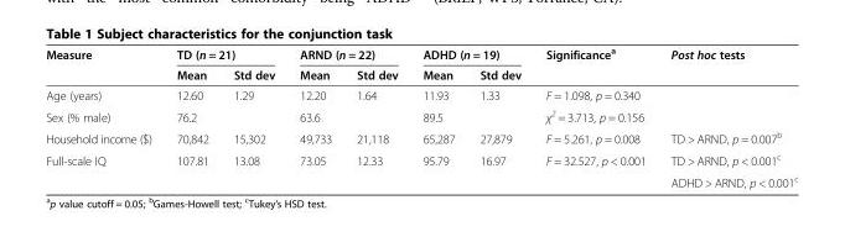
<table><thead><tr><td rowspan="2">Measure</td><td colspan="2">TD (n = 21)</td><td colspan="2">ARND (n = 22)</td><td colspan="2">ADHD (n = 19)</td><td rowspan="2">Significance<sup>a</sup></td><td rowspan="2">Post hoc tests</td></tr><tr><td>Mean</td><td>Std dev</td><td>Mean</td><td>Std dev</td><td>Mean</td><td>Std dev</td></tr></thead><tbody><tr><td>Age (years)</td><td>12.60</td><td>1.29</td><td>12.20</td><td>1.64</td><td>11.93</td><td>1.33</td><td>F = 1.098, p = 0.340</td><td></td></tr><tr><td>Sex (% male)</td><td>76.2</td><td></td><td>63.6</td><td></td><td>89.5</td><td></td><td>χ<sup>2</sup> = 3.713, p = 0.156</td><td></td></tr><tr><td>Household income ($)</td><td>70,842</td><td>15,302</td><td>49,733</td><td>21,118</td><td>65,287</td><td>27,879</td><td>F = 5.261, p = 0.008</td><td>TD &gt; ARND, p = 0.007<sup>b</sup></td></tr><tr><td rowspan="2">Full-scale IQ</td><td>107.81</td><td>13.08</td><td>73.05</td><td>12.33</td><td>95.79</td><td>16.97</td><td>F = 32.527, p &lt; 0.001</td><td>TD &gt; ARND, p &lt; 0.001<sup>c</sup></td></tr><tr><td></td><td></td><td></td><td></td><td></td><td></td><td></td><td>ADHD &gt; ARND, p &lt; 0.001<sup>c</sup></td></tr></tbody></table>